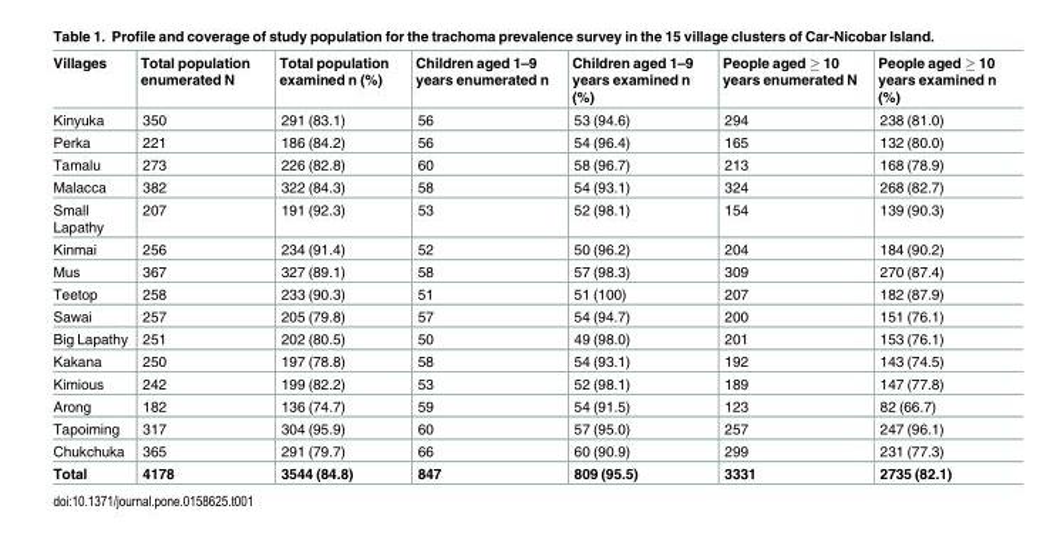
<table><thead><tr><td>Villages</td><td>Total population enumerated N</td><td>Total population examined n (%)</td><td>Children aged 1–9 years enumerated n</td><td>Children aged 1–9 years examined n (%)</td><td>People aged ≥ 10 years enumerated N</td><td>People aged ≥ 10 years examined n (%)</td></tr></thead><tbody><tr><td>Kinyuka</td><td>350</td><td>291 (83.1)</td><td>56</td><td>53 (94.6)</td><td>294</td><td>238 (81.0)</td></tr><tr><td>Perka</td><td>221</td><td>186 (84.2)</td><td>56</td><td>54 (96.4)</td><td>165</td><td>132 (80.0)</td></tr><tr><td>Tamalu</td><td>273</td><td>226 (82.8)</td><td>60</td><td>58 (96.7)</td><td>213</td><td>168 (78.9)</td></tr><tr><td>Malacca</td><td>382</td><td>322 (84.3)</td><td>58</td><td>54 (93.1)</td><td>324</td><td>268 (82.7)</td></tr><tr><td>Small Lapathy</td><td>207</td><td>191 (92.3)</td><td>53</td><td>52 (98.1)</td><td>154</td><td>139 (90.3)</td></tr><tr><td>Kinmai</td><td>256</td><td>234 (91.4)</td><td>52</td><td>50 (96.2)</td><td>204</td><td>184 (90.2)</td></tr><tr><td>Mus</td><td>367</td><td>327 (89.1)</td><td>58</td><td>57 (98.3)</td><td>309</td><td>270 (87.4)</td></tr><tr><td>Teetop</td><td>258</td><td>233 (90.3)</td><td>51</td><td>51 (100)</td><td>207</td><td>182 (87.9)</td></tr><tr><td>Sawai</td><td>257</td><td>205 (79.8)</td><td>57</td><td>54 (94.7)</td><td>200</td><td>151 (76.1)</td></tr><tr><td>Big Lapathy</td><td>251</td><td>202 (80.5)</td><td>50</td><td>49 (98.0)</td><td>201</td><td>153 (76.1)</td></tr><tr><td>Kakana</td><td>250</td><td>197 (78.8)</td><td>58</td><td>54 (93.1)</td><td>192</td><td>143 (74.5)</td></tr><tr><td>Kimious</td><td>242</td><td>199 (82.2)</td><td>53</td><td>52 (98.1)</td><td>189</td><td>147 (77.8)</td></tr><tr><td>Arong</td><td>182</td><td>136 (74.7)</td><td>59</td><td>54 (91.5)</td><td>123</td><td>82 (66.7)</td></tr><tr><td>Tapoiming</td><td>317</td><td>304 (95.9)</td><td>60</td><td>57 (95.0)</td><td>257</td><td>247 (96.1)</td></tr><tr><td>Chukchuka</td><td>365</td><td>291 (79.7)</td><td>66</td><td>60 (90.9)</td><td>299</td><td>231 (77.3)</td></tr><tr><td>Total</td><td>4178</td><td>3544 (84.8)</td><td>847</td><td>809 (95.5)</td><td>3331</td><td>2735 (82.1)</td></tr></tbody></table>